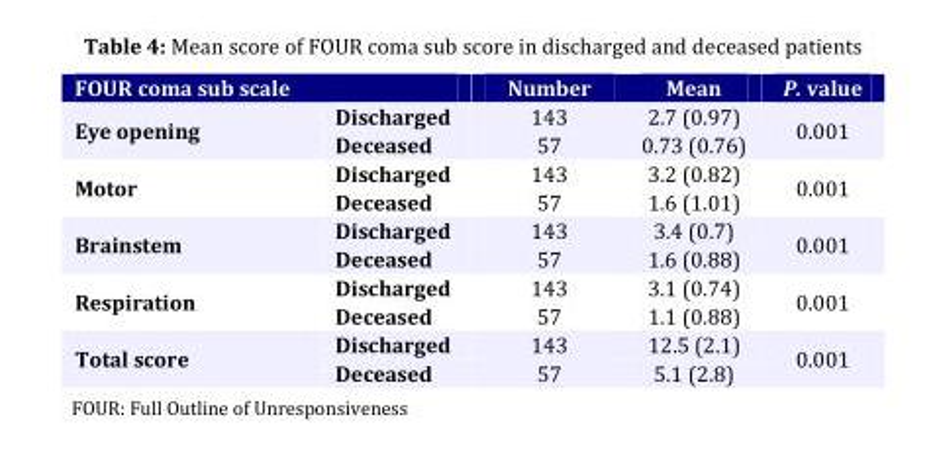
<table><thead><tr><td>FOUR coma sub scale</td><td></td><td>Number</td><td>Mean</td><td>P. value</td></tr></thead><tbody><tr><td rowspan="2">Eye opening</td><td>Discharged</td><td>143</td><td>2.7 (0.97)</td><td rowspan="2">0.001</td></tr><tr><td>Deceased</td><td>57</td><td>0.73 (0.76)</td></tr><tr><td rowspan="2">Motor</td><td>Discharged</td><td>143</td><td>3.2 (0.82)</td><td rowspan="2">0.001</td></tr><tr><td>Deceased</td><td>57</td><td>1.6 (1.01)</td></tr><tr><td rowspan="2">Brainstem</td><td>Discharged</td><td>143</td><td>3.4 (0.7)</td><td rowspan="2">0.001</td></tr><tr><td>Deceased</td><td>57</td><td>1.6 (0.88)</td></tr><tr><td rowspan="2">Respiration</td><td>Discharged</td><td>143</td><td>3.1 (0.74)</td><td rowspan="2">0.001</td></tr><tr><td>Deceased</td><td>57</td><td>1.1 (0.88)</td></tr><tr><td rowspan="2">Total score</td><td>Discharged</td><td>143</td><td>12.5 (2.1)</td><td rowspan="2">0.001</td></tr><tr><td>Deceased</td><td>57</td><td>5.1 (2.8)</td></tr></tbody></table>